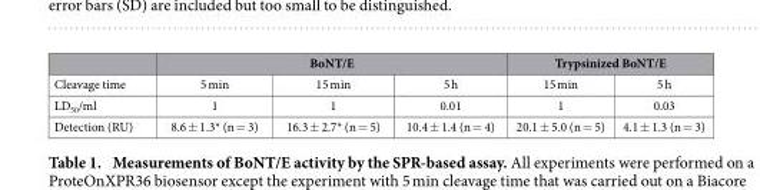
<table><thead><tr><td rowspan="2">Cleavage time</td><td colspan="3">BoNT/E</td><td colspan="2">Trypsinized BoNT/E</td></tr><tr><td>5 min</td><td>15 min</td><td>5 h</td><td>15 min</td><td>5 h</td></tr></thead><tbody><tr><td>LD<sub>50</sub>/ml</td><td>1</td><td>1</td><td>0.01</td><td>1</td><td>0.03</td></tr><tr><td>Detection (RU)</td><td>8.6 ± 1.3* (n = 3)</td><td>16.3 ± 2.7* (n = 5)</td><td>10.4 ± 1.4 (n = 4)</td><td>20.1 ± 5.0 (n = 5)</td><td>4.1 ± 1.3 (n = 3)</td></tr></tbody></table>